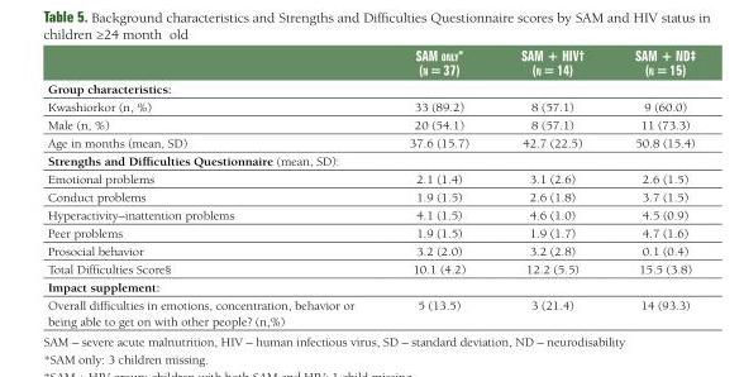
<table><thead><tr><td></td><td>saM only* (n = 37)</td><td>saM + hiv† (n = 14)</td><td>saM + nD‡ (n = 15)</td></tr></thead><tbody><tr><td colspan="4">Group characteristics:</td></tr><tr><td>Kwashiorkor (n, %)</td><td>33 (89.2)</td><td>8 (57.1)</td><td>9 (60.0)</td></tr><tr><td>Male (n, %)</td><td>20 (54.1)</td><td>8 (57.1)</td><td>11 (73.3)</td></tr><tr><td>Age in months (mean, SD)</td><td>37.6 (15.7)</td><td>42.7 (22.5)</td><td>50.8 (15.4)</td></tr><tr><td colspan="4">Strengths and Difficulties Questionnaire (mean, SD):</td></tr><tr><td>Emotional problems</td><td>2.1 (1.4)</td><td>3.1 (2.6)</td><td>2.6 (1.5)</td></tr><tr><td>Conduct problems</td><td>1.9 (1.5)</td><td>2.6 (1.8)</td><td>3.7 (1.5)</td></tr><tr><td>Hyperactivity–inattention problems</td><td>4.1 (1.5)</td><td>4.6 (1.0)</td><td>4.5 (0.9)</td></tr><tr><td>Peer problems</td><td>1.9 (1.5)</td><td>1.9 (1.7)</td><td>4.7 (1.6)</td></tr><tr><td>Prosocial behavior</td><td>3.2 (2.0)</td><td>3.2 (2.8)</td><td>0.1 (0.4)</td></tr><tr><td>Total Difficulties Score§</td><td>10.1 (4.2)</td><td>12.2 (5.5)</td><td>15.5 (3.8)</td></tr><tr><td colspan="4">Impact supplement:</td></tr><tr><td>Overall difficulties in emotions, concentration, behavior or being able to get on with other people? (n,%)</td><td>5 (13.5)</td><td>3 (21.4)</td><td>14 (93.3)</td></tr></tbody></table>